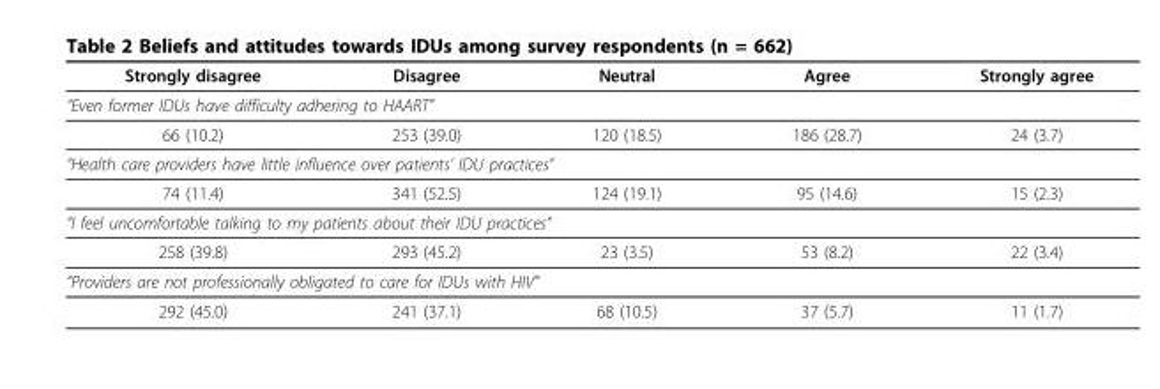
<table><thead><tr><td>Strongly disagree</td><td>Disagree</td><td>Neutral</td><td>Agree</td><td>Strongly agree</td></tr></thead><tbody><tr><td colspan="5">“Even former IDUs have difficulty adhering to HAART”</td></tr><tr><td>66 (10.2)</td><td>253 (39.0)</td><td>120 (18.5)</td><td>186 (28.7)</td><td>24 (3.7)</td></tr><tr><td colspan="5">“Health care providers have little influence over patients’ IDU practices”</td></tr><tr><td>74 (11.4)</td><td>341 (52.5)</td><td>124 (19.1)</td><td>95 (14.6)</td><td>15 (2.3)</td></tr><tr><td colspan="5">“I feel uncomfortable talking to my patients about their IDU practices”</td></tr><tr><td>258 (39.8)</td><td>293 (45.2)</td><td>23 (3.5)</td><td>53 (8.2)</td><td>22 (3.4)</td></tr><tr><td colspan="5">“Providers are not professionally obligated to care for IDUs with HIV”</td></tr><tr><td>292 (45.0)</td><td>241 (37.1)</td><td>68 (10.5)</td><td>37 (5.7)</td><td>11 (1.7)</td></tr></tbody></table>